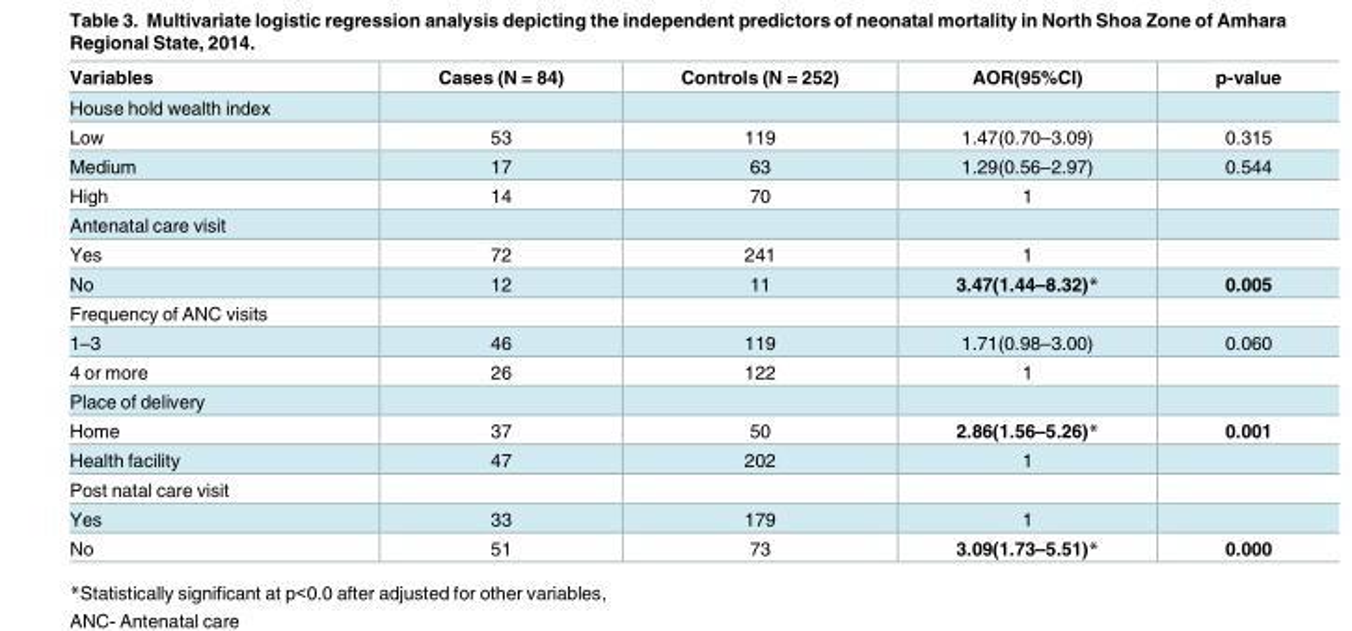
<table><thead><tr><td>Variables</td><td>Cases (N = 84)</td><td>Controls (N = 252)</td><td>AOR(95%CI)</td><td>p-value</td></tr></thead><tbody><tr><td colspan="5">House hold wealth index</td></tr><tr><td>Low</td><td>53</td><td>119</td><td>1.47(0.70–3.09)</td><td>0.315</td></tr><tr><td>Medium</td><td>17</td><td>63</td><td>1.29(0.56–2.97)</td><td>0.544</td></tr><tr><td>High</td><td>14</td><td>70</td><td>1</td><td></td></tr><tr><td colspan="5">Antenatal care visit</td></tr><tr><td>Yes</td><td>72</td><td>241</td><td>1</td><td></td></tr><tr><td>No</td><td>12</td><td>11</td><td>3.47(1.44–8.32)*</td><td>0.005</td></tr><tr><td colspan="5">Frequency of ANC visits</td></tr><tr><td>1–3</td><td>46</td><td>119</td><td>1.71(0.98–3.00)</td><td>0.060</td></tr><tr><td>4 or more</td><td>26</td><td>122</td><td>1</td><td></td></tr><tr><td colspan="5">Place of delivery</td></tr><tr><td>Home</td><td>37</td><td>50</td><td>2.86(1.56–5.26)*</td><td>0.001</td></tr><tr><td>Health facility</td><td>47</td><td>202</td><td>1</td><td></td></tr><tr><td colspan="5">Post natal care visit</td></tr><tr><td>Yes</td><td>33</td><td>179</td><td>1</td><td></td></tr><tr><td>No</td><td>51</td><td>73</td><td>3.09(1.73–5.51)*</td><td>0.000</td></tr></tbody></table>